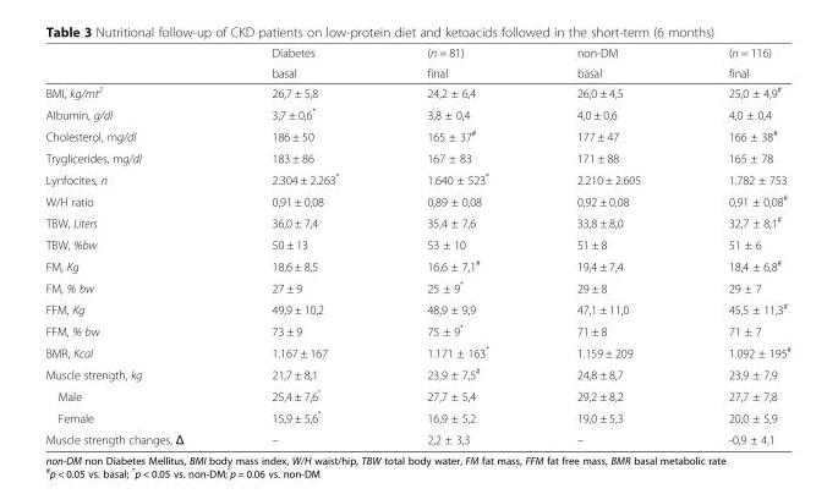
<table><thead><tr><td rowspan="2"></td><td rowspan="2">Diabetes basal</td><td rowspan="2">(n = 81) final</td><td rowspan="2">non-DM basal</td><td rowspan="2">(n = 116) final</td></tr><tr></tr></thead><tbody><tr><td>BMI, kg/mt<sup>2</sup></td><td>26,7 ± 5,8</td><td>24,2 ± 6,4</td><td>26,0 ± 4,5</td><td>25,0 ± 4,9<sup>#</sup></td></tr><tr><td>Albumin, g/dl</td><td>3,7 ± 0,6*</td><td>3,8 ± 0,4</td><td>4,0 ± 0,6</td><td>4,0 ± 0,4</td></tr><tr><td>Cholesterol, mg/dl</td><td>186 ± 50</td><td>165 ± 37<sup>#</sup></td><td>177 ± 47</td><td>166 ± 38<sup>#</sup></td></tr><tr><td>Tryglicerides, mg/dl</td><td>183 ± 86</td><td>167 ± 83</td><td>171 ± 88</td><td>165 ± 78</td></tr><tr><td>Lynfocites, n</td><td>2.304 ± 2.263*</td><td>1.640 ± 523*</td><td>2.210 ± 2.605</td><td>1.782 ± 753</td></tr><tr><td>W/H ratio</td><td>0,91 ± 0,08</td><td>0,89 ± 0,08</td><td>0,92 ± 0,08</td><td>0,91 ± 0,08<sup>#</sup></td></tr><tr><td>TBW, Liters</td><td>36,0 ± 7,4</td><td>35,4 ± 7,6</td><td>33,8 ± 8,0</td><td>32,7 ± 8,1<sup>#</sup></td></tr><tr><td>TBW, %bw</td><td>50 ± 13</td><td>53 ± 10</td><td>51 ± 8</td><td>51 ± 6</td></tr><tr><td>FM, Kg</td><td>18,6 ± 8,5</td><td>16,6 ± 7,1<sup>#</sup></td><td>19,4 ± 7,4</td><td>18,4 ± 6,8<sup>#</sup></td></tr><tr><td>FM, % bw</td><td>27 ± 9</td><td>25 ± 9*</td><td>29 ± 8</td><td>29 ± 7</td></tr><tr><td>FFM, Kg</td><td>49,9 ± 10,2</td><td>48,9 ± 9,9</td><td>47,1 ± 11,0</td><td>45,5 ± 11,3<sup>#</sup></td></tr><tr><td>FFM, % bw</td><td>73 ± 9</td><td>75 ± 9*</td><td>71 ± 8</td><td>71 ± 7</td></tr><tr><td>BMR, Kcal</td><td>1.167 ± 167</td><td>1.171 ± 163*</td><td>1.159 ± 209</td><td>1.092 ± 195<sup>#</sup></td></tr><tr><td>Muscle strength, kg</td><td>21,7 ± 8,1</td><td>23,9 ± 7,5<sup>#</sup></td><td>24,8 ± 8,7</td><td>23,9 ± 7,9</td></tr><tr><td>Male</td><td>25,4 ± 7,6<sup>°</sup></td><td>27,7 ± 5,4</td><td>29,2 ± 8,2</td><td>27,7 ± 7,8</td></tr><tr><td>Female</td><td>15,9 ± 5,6<sup>°</sup></td><td>16,9 ± 5,2</td><td>19,0 ± 5,3</td><td>20,0 ± 5,9</td></tr><tr><td>Muscle strength changes, Δ</td><td>–</td><td>2,2 ± 3,3</td><td>–</td><td>-0,9 ± 4,1</td></tr></tbody></table>